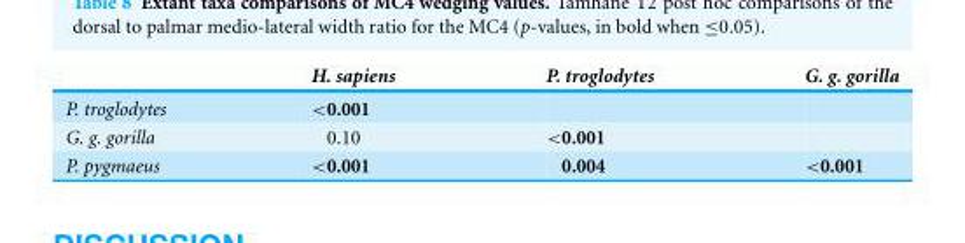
<table><thead><tr><td></td><td>H. sapiens</td><td>P. troglodytes</td><td>G. g. gorilla</td></tr></thead><tbody><tr><td>P. troglodytes</td><td>&lt;0.001</td><td></td><td></td></tr><tr><td>G. g. gorilla</td><td>0.10</td><td>&lt;0.001</td><td></td></tr><tr><td>P. pygmaeus</td><td>&lt;0.001</td><td>0.004</td><td>&lt;0.001</td></tr></tbody></table>